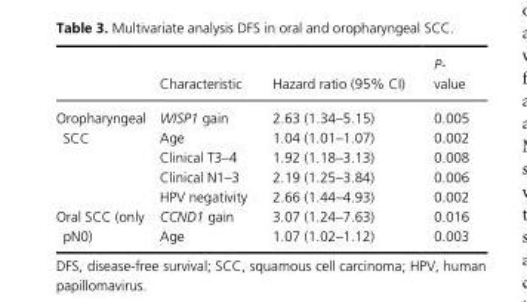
<table><thead><tr><td></td><td>Characteristic</td><td>Hazard ratio (95% CI)</td><td>P- value</td></tr></thead><tbody><tr><td rowspan="5">Oropharyngeal SCC</td><td>WISP1 gain</td><td>2.63 (1.34–5.15)</td><td>0.005</td></tr><tr><td>Age</td><td>1.04 (1.01–1.07)</td><td>0.002</td></tr><tr><td>Clinical T3–4</td><td>1.92 (1.18–3.13)</td><td>0.008</td></tr><tr><td>Clinical N1–3</td><td>2.19 (1.25–3.84)</td><td>0.006</td></tr><tr><td>HPV negativity</td><td>2.66 (1.44–4.93)</td><td>0.002</td></tr><tr><td rowspan="2">Oral SCC (only pN0)</td><td>CCND1 gain</td><td>3.07 (1.24–7.63)</td><td>0.016</td></tr><tr><td>Age</td><td>1.07 (1.02–1.12)</td><td>0.003</td></tr></tbody></table>